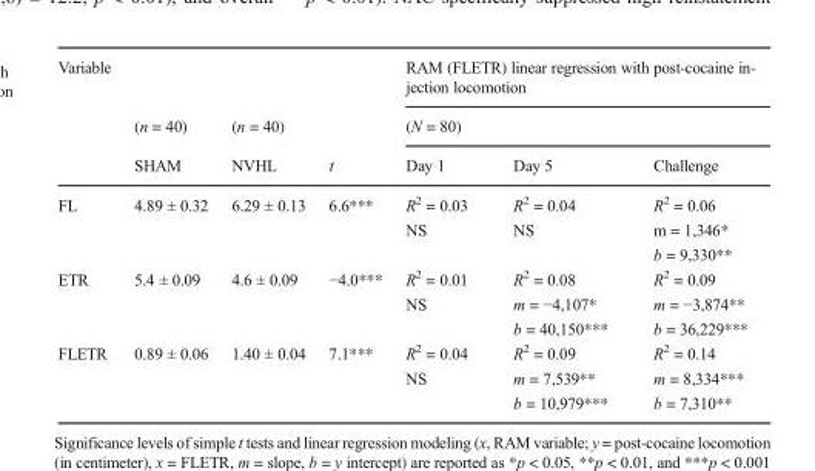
<table><thead><tr><td rowspan="3">Variable</td><td rowspan="3">(n = 40) SHAM</td><td rowspan="3">(n = 40) NVHL</td><td rowspan="3">t</td><td rowspan="2" colspan="3">RAM (FLETR) linear regression with post-cocaine in- jection locomotion (N = 80)</td></tr><tr></tr><tr><td>Day 1</td><td>Day 5</td><td>Challenge</td></tr></thead><tbody><tr><td rowspan="3">FL</td><td rowspan="3">4.89 ± 0.32</td><td rowspan="3">6.29 ± 0.13</td><td rowspan="3">6.6***</td><td>R<sup>2</sup> = 0.03</td><td>R<sup>2</sup> = 0.04</td><td>R<sup>2</sup> = 0.06</td></tr><tr><td rowspan="2">NS</td><td rowspan="2">NS</td><td>m = 1,346*</td></tr><tr><td>b = 9,330**</td></tr><tr><td rowspan="3">ETR</td><td rowspan="3">5.4 ± 0.09</td><td rowspan="3">4.6 ± 0.09</td><td rowspan="3">−4.0***</td><td>R<sup>2</sup> = 0.01</td><td>R<sup>2</sup> = 0.08</td><td>R<sup>2</sup> = 0.09</td></tr><tr><td rowspan="2">NS</td><td>m = −4,107*</td><td>m = −3,874**</td></tr><tr><td>b = 40,150***</td><td>b = 36,229***</td></tr><tr><td rowspan="3">FLETR</td><td rowspan="3">0.89 ± 0.06</td><td rowspan="3">1.40 ± 0.04</td><td rowspan="3">7.1***</td><td>R<sup>2</sup> = 0.04</td><td>R<sup>2</sup> = 0.09</td><td>R<sup>2</sup> = 0.14</td></tr><tr><td rowspan="2">NS</td><td>m = 7,539**</td><td>m = 8,334***</td></tr><tr><td>b = 10,979***</td><td>b = 7,310**</td></tr></tbody></table>